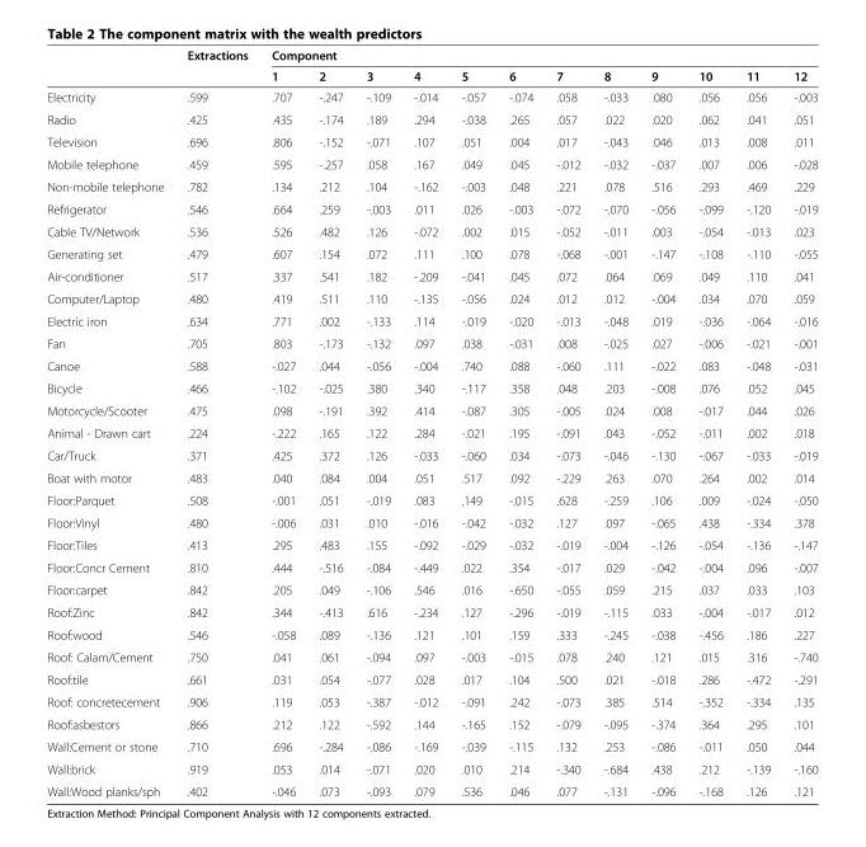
<table><thead><tr><td rowspan="2"></td><td rowspan="2">Extractions</td><td colspan="12">Component</td></tr><tr><td>1</td><td>2</td><td>3</td><td>4</td><td>5</td><td>6</td><td>7</td><td>8</td><td>9</td><td>10</td><td>11</td><td>12</td></tr></thead><tbody><tr><td>Electricity</td><td>.599</td><td>.707</td><td>-.247</td><td>-.109</td><td>-.014</td><td>-.057</td><td>-.074</td><td>.058</td><td>-.033</td><td>.080</td><td>.056</td><td>.056</td><td>-.003</td></tr><tr><td>Radio</td><td>.425</td><td>.435</td><td>-.174</td><td>.189</td><td>.294</td><td>-.038</td><td>.265</td><td>.057</td><td>.022</td><td>.020</td><td>.062</td><td>.041</td><td>.051</td></tr><tr><td>Television</td><td>.696</td><td>.806</td><td>-.152</td><td>-.071</td><td>.107</td><td>.051</td><td>.004</td><td>.017</td><td>-.043</td><td>.046</td><td>.013</td><td>.008</td><td>.011</td></tr><tr><td>Mobile telephone</td><td>.459</td><td>.595</td><td>-.257</td><td>.058</td><td>.167</td><td>.049</td><td>.045</td><td>-.012</td><td>-.032</td><td>-.037</td><td>.007</td><td>.006</td><td>-.028</td></tr><tr><td>Non-mobile telephone</td><td>.782</td><td>.134</td><td>.212</td><td>.104</td><td>-.162</td><td>-.003</td><td>.048</td><td>.221</td><td>.078</td><td>.516</td><td>.293</td><td>.469</td><td>.229</td></tr><tr><td>Refrigerator</td><td>.546</td><td>.664</td><td>.259</td><td>-.003</td><td>.011</td><td>.026</td><td>-.003</td><td>-.072</td><td>-.070</td><td>-.056</td><td>-.099</td><td>-.120</td><td>-.019</td></tr><tr><td>Cable TV/Network</td><td>.536</td><td>.526</td><td>.482</td><td>.126</td><td>-.072</td><td>.002</td><td>.015</td><td>-.052</td><td>-.011</td><td>.003</td><td>-.054</td><td>-.013</td><td>.023</td></tr><tr><td>Generating set</td><td>.479</td><td>.607</td><td>.154</td><td>.072</td><td>.111</td><td>.100</td><td>.078</td><td>-.068</td><td>-.001</td><td>-.147</td><td>-.108</td><td>-.110</td><td>-.055</td></tr><tr><td>Air-conditioner</td><td>.517</td><td>.337</td><td>.541</td><td>.182</td><td>-.209</td><td>-.041</td><td>.045</td><td>.072</td><td>.064</td><td>.069</td><td>.049</td><td>.110</td><td>.041</td></tr><tr><td>Computer/Laptop</td><td>.480</td><td>.419</td><td>.511</td><td>.110</td><td>-.135</td><td>-.056</td><td>.024</td><td>.012</td><td>.012</td><td>-.004</td><td>.034</td><td>.070</td><td>.059</td></tr><tr><td>Electric iron</td><td>.634</td><td>.771</td><td>.002</td><td>-.133</td><td>.114</td><td>-.019</td><td>-.020</td><td>-.013</td><td>-.048</td><td>.019</td><td>-.036</td><td>-.064</td><td>-.016</td></tr><tr><td>Fan</td><td>.705</td><td>.803</td><td>-.173</td><td>-.132</td><td>.097</td><td>.038</td><td>-.031</td><td>.008</td><td>-.025</td><td>.027</td><td>-.006</td><td>-.021</td><td>-.001</td></tr><tr><td>Canoe</td><td>.588</td><td>-.027</td><td>.044</td><td>-.056</td><td>-.004</td><td>.740</td><td>.088</td><td>-.060</td><td>.111</td><td>-.022</td><td>.083</td><td>-.048</td><td>-.031</td></tr><tr><td>Bicycle</td><td>.466</td><td>-.102</td><td>-.025</td><td>.380</td><td>.340</td><td>-.117</td><td>.358</td><td>.048</td><td>.203</td><td>-.008</td><td>.076</td><td>.052</td><td>.045</td></tr><tr><td>Motorcycle/Scooter</td><td>.475</td><td>.098</td><td>-.191</td><td>.392</td><td>.414</td><td>-.087</td><td>.305</td><td>-.005</td><td>.024</td><td>.008</td><td>-.017</td><td>.044</td><td>.026</td></tr><tr><td>Animal - Drawn cart</td><td>.224</td><td>-.222</td><td>.165</td><td>.122</td><td>.284</td><td>-.021</td><td>.195</td><td>-.091</td><td>.043</td><td>-.052</td><td>-.011</td><td>.002</td><td>.018</td></tr><tr><td>Car/Truck</td><td>.371</td><td>.425</td><td>.372</td><td>.126</td><td>-.033</td><td>-.060</td><td>.034</td><td>-.073</td><td>-.046</td><td>-.130</td><td>-.067</td><td>-.033</td><td>-.019</td></tr><tr><td>Boat with motor</td><td>.483</td><td>.040</td><td>.084</td><td>.004</td><td>.051</td><td>.517</td><td>.092</td><td>-.229</td><td>.263</td><td>.070</td><td>.264</td><td>.002</td><td>.014</td></tr><tr><td>Floor:Parquet</td><td>.508</td><td>-.001</td><td>.051</td><td>-.019</td><td>.083</td><td>.149</td><td>-.015</td><td>.628</td><td>-.259</td><td>.106</td><td>.009</td><td>-.024</td><td>-.050</td></tr><tr><td>Floor:Vinyl</td><td>.480</td><td>-.006</td><td>.031</td><td>.010</td><td>-.016</td><td>-.042</td><td>-.032</td><td>.127</td><td>.097</td><td>-.065</td><td>.438</td><td>-.334</td><td>.378</td></tr><tr><td>Floor:Tiles</td><td>.413</td><td>.295</td><td>.483</td><td>.155</td><td>-.092</td><td>-.029</td><td>-.032</td><td>-.019</td><td>-.004</td><td>-.126</td><td>-.054</td><td>-.136</td><td>-.147</td></tr><tr><td>Floor:Concr Cement</td><td>.810</td><td>.444</td><td>-.516</td><td>-.084</td><td>-.449</td><td>.022</td><td>.354</td><td>-.017</td><td>.029</td><td>-.042</td><td>-.004</td><td>.096</td><td>-.007</td></tr><tr><td>Floor:carpet</td><td>.842</td><td>.205</td><td>.049</td><td>-.106</td><td>.546</td><td>.016</td><td>-.650</td><td>-.055</td><td>.059</td><td>.215</td><td>.037</td><td>.033</td><td>.103</td></tr><tr><td>Roof:Zinc</td><td>.842</td><td>.344</td><td>-.413</td><td>.616</td><td>-.234</td><td>.127</td><td>-.296</td><td>-.019</td><td>-.115</td><td>.033</td><td>-.004</td><td>-.017</td><td>.012</td></tr><tr><td>Roof:wood</td><td>.546</td><td>-.058</td><td>.089</td><td>-.136</td><td>.121</td><td>.101</td><td>.159</td><td>.333</td><td>-.245</td><td>-.038</td><td>-.456</td><td>.186</td><td>.227</td></tr><tr><td>Roof: Calam/Cement</td><td>.750</td><td>.041</td><td>.061</td><td>-.094</td><td>.097</td><td>-.003</td><td>-.015</td><td>.078</td><td>.240</td><td>.121</td><td>.015</td><td>.316</td><td>-.740</td></tr><tr><td>Roof:tile</td><td>.661</td><td>.031</td><td>.054</td><td>-.077</td><td>.028</td><td>.017</td><td>.104</td><td>.500</td><td>.021</td><td>-.018</td><td>.286</td><td>-.472</td><td>-.291</td></tr><tr><td>Roof: concretecement</td><td>.906</td><td>.119</td><td>.053</td><td>-.387</td><td>-.012</td><td>-.091</td><td>.242</td><td>-.073</td><td>.385</td><td>.514</td><td>-.352</td><td>-.334</td><td>.135</td></tr><tr><td>Roof:asbestors</td><td>.866</td><td>.212</td><td>.122</td><td>-.592</td><td>.144</td><td>-.165</td><td>.152</td><td>-.079</td><td>-.095</td><td>-.374</td><td>.364</td><td>.295</td><td>.101</td></tr><tr><td>Wall:Cement or stone</td><td>.710</td><td>.696</td><td>-.284</td><td>-.086</td><td>-.169</td><td>-.039</td><td>-.115</td><td>.132</td><td>.253</td><td>-.086</td><td>-.011</td><td>.050</td><td>.044</td></tr><tr><td>Wall:brick</td><td>.919</td><td>.053</td><td>.014</td><td>-.071</td><td>.020</td><td>.010</td><td>.214</td><td>-.340</td><td>-.684</td><td>.438</td><td>.212</td><td>-.139</td><td>-.160</td></tr><tr><td>Wall:Wood planks/sph</td><td>.402</td><td>-.046</td><td>.073</td><td>-.093</td><td>.079</td><td>.536</td><td>.046</td><td>.077</td><td>-.131</td><td>-.096</td><td>-.168</td><td>.126</td><td>.121</td></tr></tbody></table>